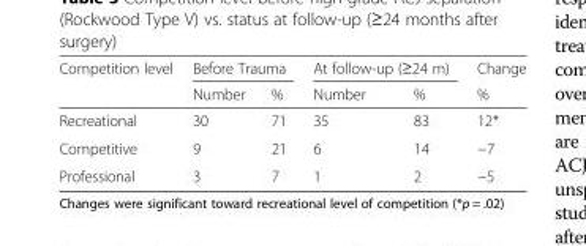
<table><thead><tr><td rowspan="2">Competition level</td><td colspan="2">Before Trauma</td><td colspan="2">At follow-up (≥24 m)</td><td rowspan="2">Change %</td></tr><tr><td>Number</td><td>%</td><td>Number</td><td>%</td></tr></thead><tbody><tr><td>Recreational</td><td>30</td><td>71</td><td>35</td><td>83</td><td>12*</td></tr><tr><td>Competitive</td><td>9</td><td>21</td><td>6</td><td>14</td><td>−7</td></tr><tr><td>Professional</td><td>3</td><td>7</td><td>1</td><td>2</td><td>−5</td></tr></tbody></table>